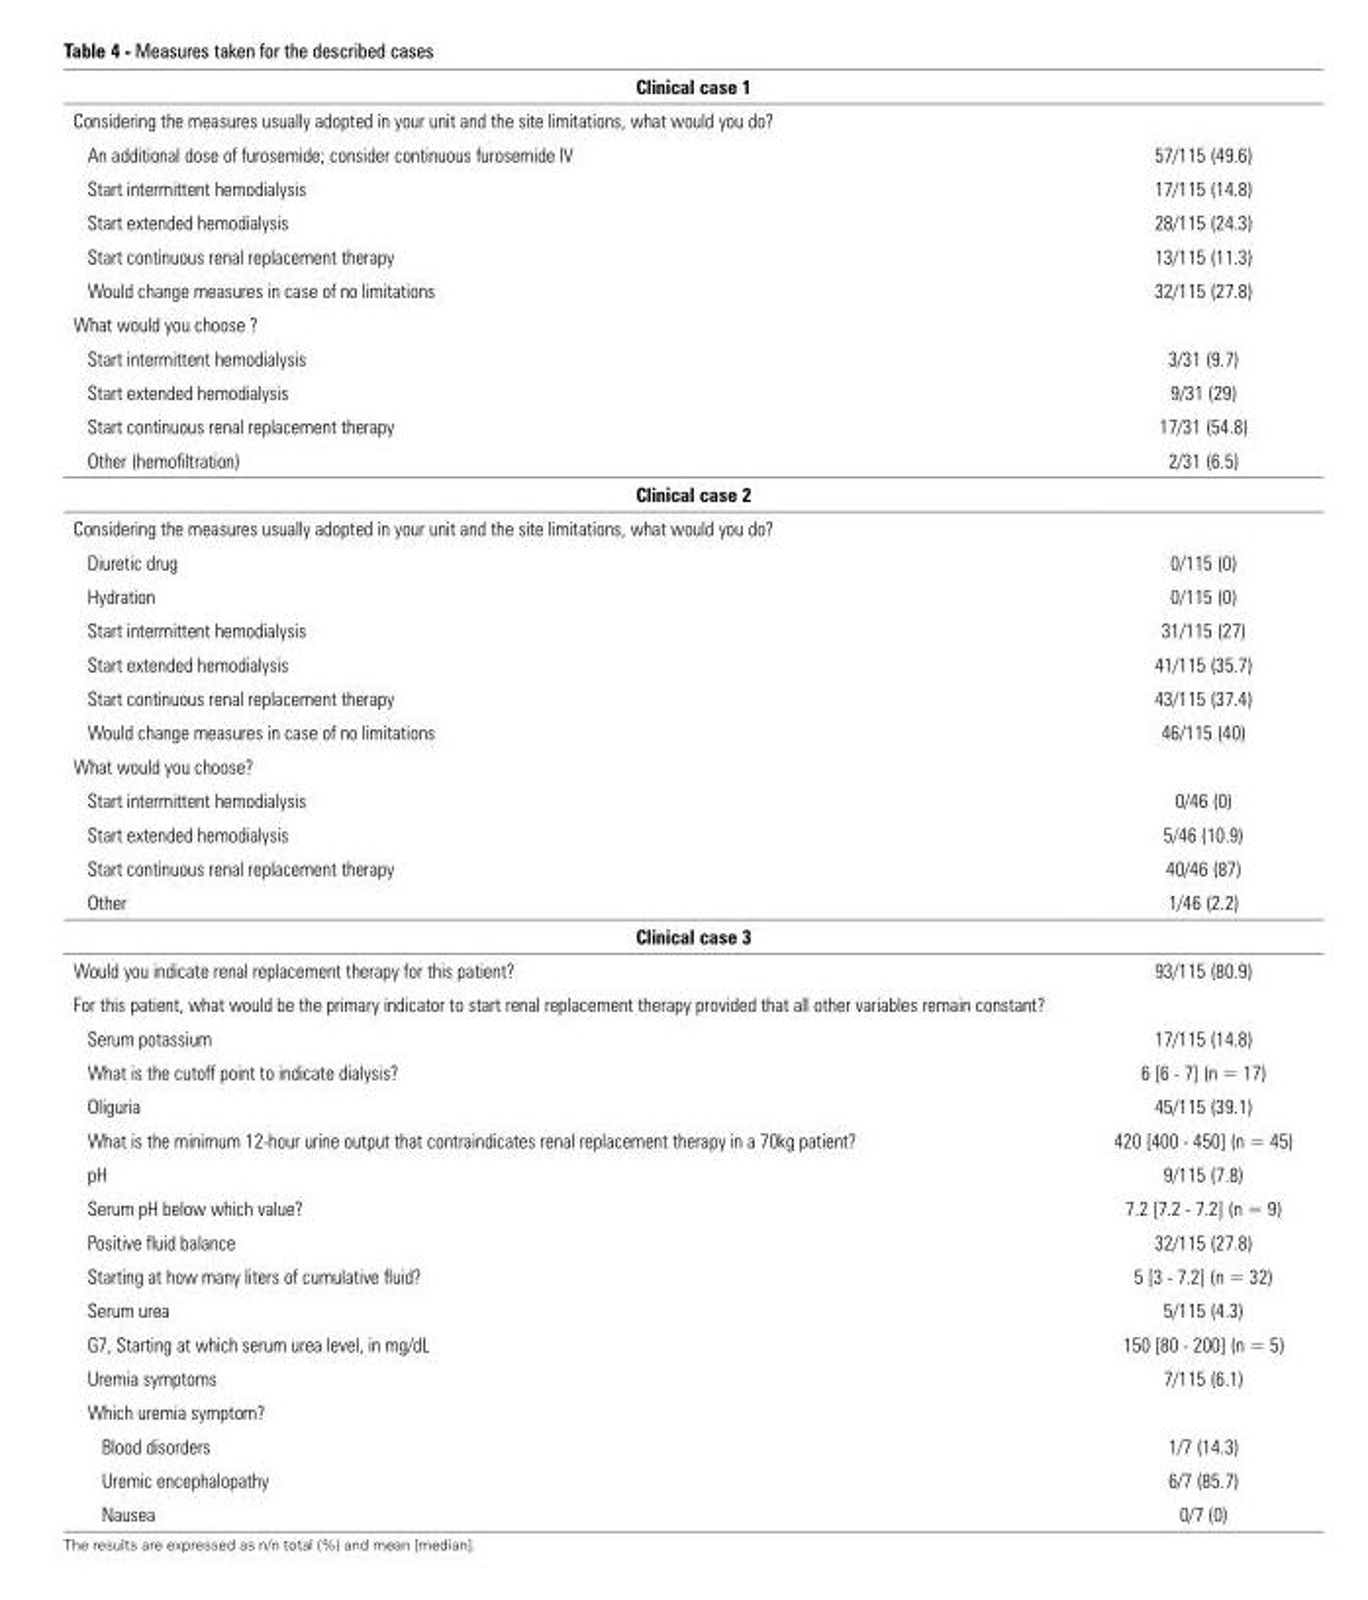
<table><tbody><tr><td colspan="2">Clinical case 1</td></tr><tr><td colspan="2">Considering the measures usually adopted in your unit and the site limitations, what would you do?</td></tr><tr><td>An additional dose of furosemide; consider continuous furosemide IV</td><td>57/115 (49.6)</td></tr><tr><td>Start intermittent hemodialysis</td><td>17/115 (14.8)</td></tr><tr><td>Start extended hemodialysis</td><td>28/115 (24.3)</td></tr><tr><td>Start continuous renal replacement therapy</td><td>13/115 (11.3)</td></tr><tr><td>Would change measures in case of no limitations</td><td>32/115 (27.8)</td></tr><tr><td colspan="2">What would you choose ?</td></tr><tr><td>Start intermittent hemodialysis</td><td>3/31 (9.7)</td></tr><tr><td>Start extended hemodialysis</td><td>9/31 (29)</td></tr><tr><td>Start continuous renal replacement therapy</td><td>17/31 (54.8)</td></tr><tr><td>Other (hemofiltration)</td><td>2/31 (6.5)</td></tr><tr><td colspan="2">Clinical case 2</td></tr><tr><td colspan="2">Considering the measures usually adopted in your unit and the site limitations, what would you do?</td></tr><tr><td>Diuretic drug</td><td>0/115 (0)</td></tr><tr><td>Hydration</td><td>0/115 (0)</td></tr><tr><td>Start intermittent hemodialysis</td><td>31/115 (27)</td></tr><tr><td>Start extended hemodialysis</td><td>41/115 (35.7)</td></tr><tr><td>Start continuous renal replacement therapy</td><td>43/115 (37.4)</td></tr><tr><td>Would change measures in case of no limitations</td><td>46/115 (40)</td></tr><tr><td colspan="2">What would you choose?</td></tr><tr><td>Start intermittent hemodialysis</td><td>0/46 (0)</td></tr><tr><td>Start extended hemodialysis</td><td>5/46 (10.9)</td></tr><tr><td>Start continuous renal replacement therapy</td><td>40/46 (87)</td></tr><tr><td>Other</td><td>1/46 (2.2)</td></tr><tr><td colspan="2">Clinical case 3</td></tr><tr><td>Would you indicate renal replacement therapy for this patient?</td><td>93/115 (80.9)</td></tr><tr><td colspan="2">For this patient, what would be the primary indicator to start renal replacement therapy provided that all other variables remain constant?</td></tr><tr><td>Serum potassium</td><td>17/115 (14.8)</td></tr><tr><td>What is the cutoff point to indicate dialysis?</td><td>6 [6 - 7] (n = 17)</td></tr><tr><td>Oliguria</td><td>45/115 (39.1)</td></tr><tr><td>What is the minimum 12-hour urine output that contraindicates renal replacement therapy in a 70kg patient?</td><td>420 [400 - 450] (n = 45)</td></tr><tr><td>pH</td><td>9/115 (7.8)</td></tr><tr><td>Serum pH below which value?</td><td>7.2 [7.2 - 7.2] (n = 9)</td></tr><tr><td>Positive fluid balance</td><td>32/115 (27.8)</td></tr><tr><td>Starting at how many liters of cumulative fluid?</td><td>5 [3 - 7.2] (n = 32)</td></tr><tr><td>Serum urea</td><td>5/115 (4.3)</td></tr><tr><td>G7, Starting at which serum urea level, in mg/dL</td><td>150 [80 - 200] (n = 5)</td></tr><tr><td>Uremia symptoms</td><td>7/115 (6.1)</td></tr><tr><td colspan="2">Which uremia symptom?</td></tr><tr><td>Blood disorders</td><td>1/7 (14.3)</td></tr><tr><td>Uremic encephalopathy</td><td>6/7 (85.7)</td></tr><tr><td>Nausea</td><td>0/7 (0)</td></tr></tbody></table>